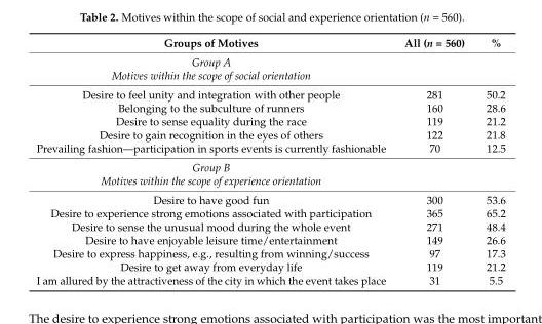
<table><thead><tr><td>Groups of Motives</td><td>All (n = 560)</td><td>%</td></tr></thead><tbody><tr><td colspan="3">Group A Motives within the scope of social orientation</td></tr><tr><td>Desire to feel unity and integration with other people</td><td>281</td><td>50.2</td></tr><tr><td>Belonging to the subculture of runners</td><td>160</td><td>28.6</td></tr><tr><td>Desire to sense equality during the race</td><td>119</td><td>21.2</td></tr><tr><td>Desire to gain recognition in the eyes of others</td><td>122</td><td>21.8</td></tr><tr><td>Prevailing fashion—participation in sports events is currently fashionable</td><td>70</td><td>12.5</td></tr><tr><td colspan="3">Group B Motives within the scope of experience orientation</td></tr><tr><td>Desire to have good fun</td><td>300</td><td>53.6</td></tr><tr><td>Desire to experience strong emotions associated with participation</td><td>365</td><td>65.2</td></tr><tr><td>Desire to sense the unusual mood during the whole event</td><td>271</td><td>48.4</td></tr><tr><td>Desire to have enjoyable leisure time/entertainment</td><td>149</td><td>26.6</td></tr><tr><td>Desire to express happiness, e.g., resulting from winning/success</td><td>97</td><td>17.3</td></tr><tr><td>Desire to get away from everyday life</td><td>119</td><td>21.2</td></tr><tr><td>I am allured by the attractiveness of the city in which the event takes place</td><td>31</td><td>5.5</td></tr></tbody></table>